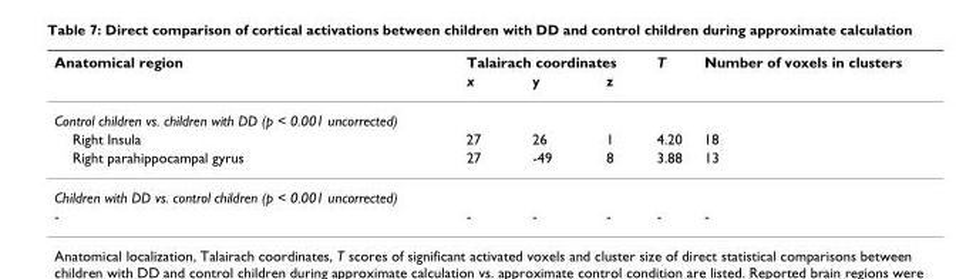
<table><thead><tr><td rowspan="2">Anatomical region</td><td colspan="3">Talairach coordinates</td><td rowspan="2">T</td><td rowspan="2">Number of voxels in clusters</td></tr><tr><td>x</td><td>y</td><td>z</td></tr></thead><tbody><tr><td colspan="6">Control children vs. children with DD (p &lt; 0.001 uncorrected)</td></tr><tr><td>Right Insula</td><td>27</td><td>26</td><td>1</td><td>4.20</td><td>18</td></tr><tr><td>Right parahippocampal gyrus</td><td>27</td><td>-49</td><td>8</td><td>3.88</td><td>13</td></tr><tr><td colspan="6">Children with DD vs. control children (p &lt; 0.001 uncorrected)</td></tr><tr><td>-</td><td>-</td><td>-</td><td>-</td><td>-</td><td>-</td></tr></tbody></table>